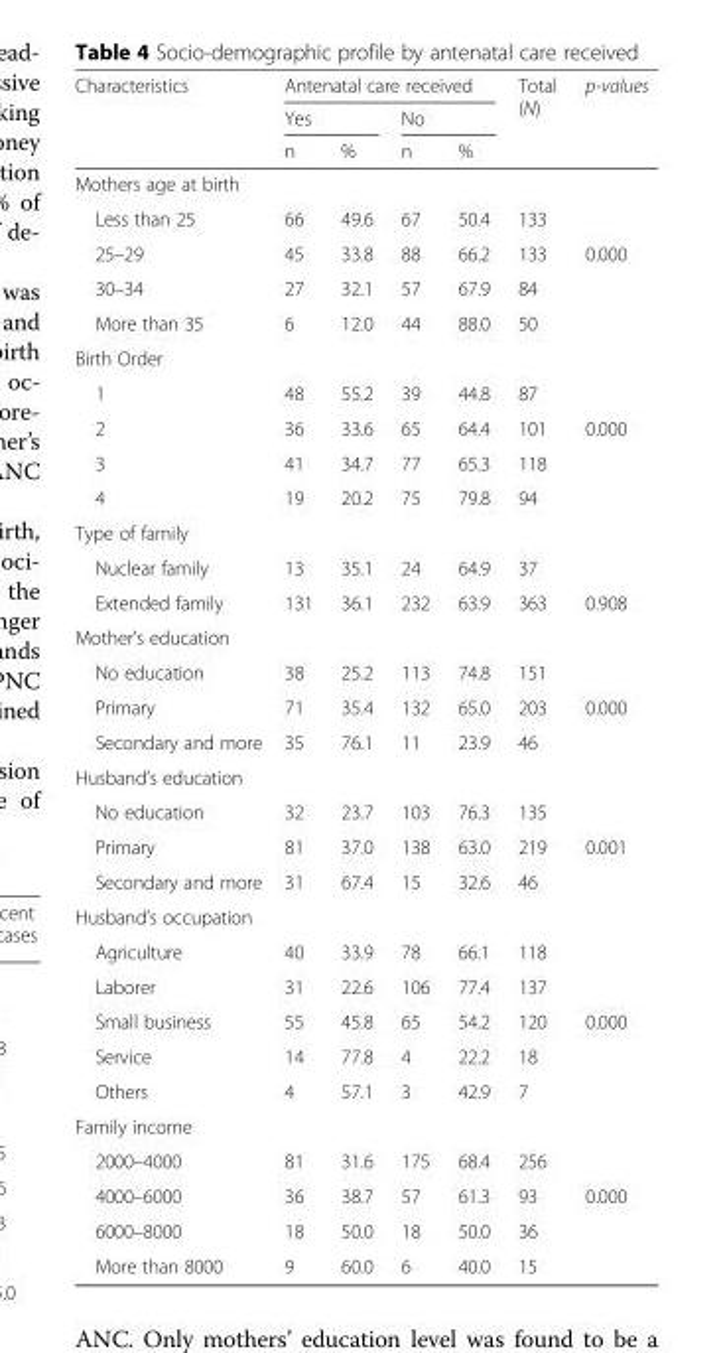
<table><thead><tr><td rowspan="3">Characteristics</td><td colspan="4">Antenatal care received</td><td rowspan="3">Total (N)</td><td rowspan="3">p-values</td></tr><tr><td colspan="2">Yes</td><td colspan="2">No</td></tr><tr><td>n</td><td>%</td><td>n</td><td>%</td></tr></thead><tbody><tr><td colspan="7">Mothers age at birth</td></tr><tr><td>Less than 25</td><td>66</td><td>49.6</td><td>67</td><td>50.4</td><td>133</td><td></td></tr><tr><td>25–29</td><td>45</td><td>33.8</td><td>88</td><td>66.2</td><td>133</td><td>0.000</td></tr><tr><td>30–34</td><td>27</td><td>32.1</td><td>57</td><td>67.9</td><td>84</td><td></td></tr><tr><td>More than 35</td><td>6</td><td>12.0</td><td>44</td><td>88.0</td><td>50</td><td></td></tr><tr><td colspan="7">Birth Order</td></tr><tr><td>1</td><td>48</td><td>55.2</td><td>39</td><td>44.8</td><td>87</td><td></td></tr><tr><td>2</td><td>36</td><td>33.6</td><td>65</td><td>64.4</td><td>101</td><td>0.000</td></tr><tr><td>3</td><td>41</td><td>34.7</td><td>77</td><td>65.3</td><td>118</td><td></td></tr><tr><td>4</td><td>19</td><td>20.2</td><td>75</td><td>79.8</td><td>94</td><td></td></tr><tr><td colspan="7">Type of family</td></tr><tr><td>Nuclear family</td><td>13</td><td>35.1</td><td>24</td><td>64.9</td><td>37</td><td></td></tr><tr><td>Extended family</td><td>131</td><td>36.1</td><td>232</td><td>63.9</td><td>363</td><td>0.908</td></tr><tr><td colspan="7">Mother’s education</td></tr><tr><td>No education</td><td>38</td><td>25.2</td><td>113</td><td>74.8</td><td>151</td><td></td></tr><tr><td>Primary</td><td>71</td><td>35.4</td><td>132</td><td>65.0</td><td>203</td><td>0.000</td></tr><tr><td>Secondary and more</td><td>35</td><td>76.1</td><td>11</td><td>23.9</td><td>46</td><td></td></tr><tr><td colspan="7">Husband’s education</td></tr><tr><td>No education</td><td>32</td><td>23.7</td><td>103</td><td>76.3</td><td>135</td><td></td></tr><tr><td>Primary</td><td>81</td><td>37.0</td><td>138</td><td>63.0</td><td>219</td><td>0.001</td></tr><tr><td>Secondary and more</td><td>31</td><td>67.4</td><td>15</td><td>32.6</td><td>46</td><td></td></tr><tr><td colspan="7">Husband’s occupation</td></tr><tr><td>Agriculture</td><td>40</td><td>33.9</td><td>78</td><td>66.1</td><td>118</td><td></td></tr><tr><td>Laborer</td><td>31</td><td>22.6</td><td>106</td><td>77.4</td><td>137</td><td></td></tr><tr><td>Small business</td><td>55</td><td>45.8</td><td>65</td><td>54.2</td><td>120</td><td>0.000</td></tr><tr><td>Service</td><td>14</td><td>77.8</td><td>4</td><td>22.2</td><td>18</td><td></td></tr><tr><td>Others</td><td>4</td><td>57.1</td><td>3</td><td>42.9</td><td>7</td><td></td></tr><tr><td colspan="7">Family income</td></tr><tr><td>2000–4000</td><td>81</td><td>31.6</td><td>175</td><td>68.4</td><td>256</td><td></td></tr><tr><td>4000–6000</td><td>36</td><td>38.7</td><td>57</td><td>61.3</td><td>93</td><td>0.000</td></tr><tr><td>6000–8000</td><td>18</td><td>50.0</td><td>18</td><td>50.0</td><td>36</td><td></td></tr><tr><td>More than 8000</td><td>9</td><td>60.0</td><td>6</td><td>40.0</td><td>15</td><td></td></tr></tbody></table>